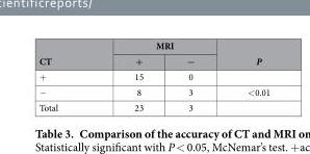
<table><thead><tr><td rowspan="2">CT</td><td colspan="2">MRI</td><td rowspan="2">P</td></tr><tr><td>+</td><td>−</td></tr></thead><tbody><tr><td>+</td><td>15</td><td>0</td><td></td></tr><tr><td>−</td><td>8</td><td>3</td><td>&lt; 0.01</td></tr><tr><td>Total</td><td>23</td><td>3</td><td></td></tr></tbody></table>